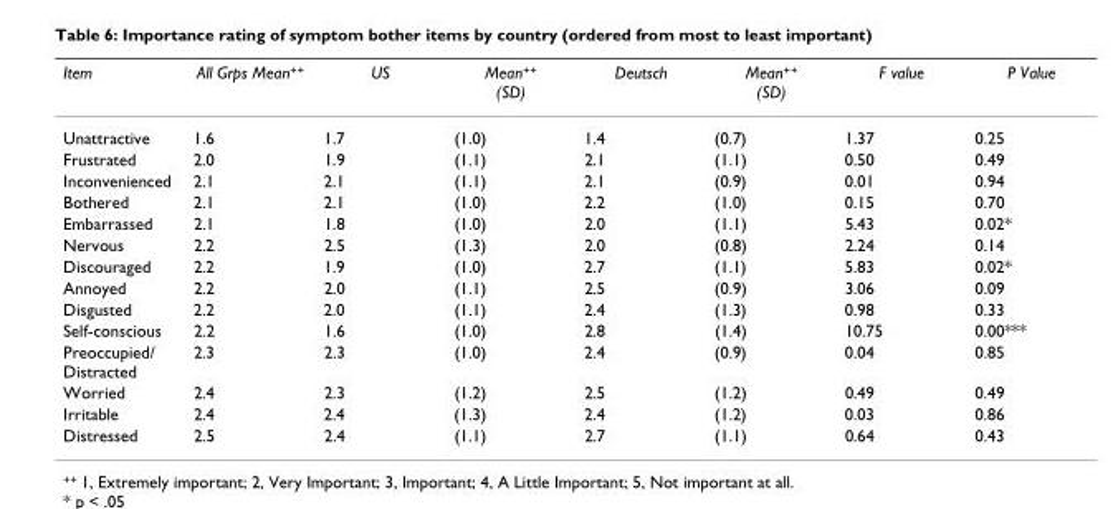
<table><thead><tr><td>Item</td><td>All Grps Mean<sup>++</sup></td><td>US</td><td>Mean<sup>++</sup> (SD)</td><td>Deutsch</td><td>Mean<sup>++</sup> (SD)</td><td>F value</td><td>P Value</td></tr></thead><tbody><tr><td>Unattractive</td><td>1.6</td><td>1.7</td><td>(1.0)</td><td>1.4</td><td>(0.7)</td><td>1.37</td><td>0.25</td></tr><tr><td>Frustrated</td><td>2.0</td><td>1.9</td><td>(1.1)</td><td>2.1</td><td>(1.1)</td><td>0.50</td><td>0.49</td></tr><tr><td>Inconvenienced</td><td>2.1</td><td>2.1</td><td>(1.1)</td><td>2.1</td><td>(0.9)</td><td>0.01</td><td>0.94</td></tr><tr><td>Bothered</td><td>2.1</td><td>2.1</td><td>(1.0)</td><td>2.2</td><td>(1.0)</td><td>0.15</td><td>0.70</td></tr><tr><td>Embarrassed</td><td>2.1</td><td>1.8</td><td>(1.0)</td><td>2.0</td><td>(1.1)</td><td>5.43</td><td>0.02*</td></tr><tr><td>Nervous</td><td>2.2</td><td>2.5</td><td>(1.3)</td><td>2.0</td><td>(0.8)</td><td>2.24</td><td>0.14</td></tr><tr><td>Discouraged</td><td>2.2</td><td>1.9</td><td>(1.0)</td><td>2.7</td><td>(1.1)</td><td>5.83</td><td>0.02*</td></tr><tr><td>Annoyed</td><td>2.2</td><td>2.0</td><td>(1.1)</td><td>2.5</td><td>(0.9)</td><td>3.06</td><td>0.09</td></tr><tr><td>Disgusted</td><td>2.2</td><td>2.0</td><td>(1.1)</td><td>2.4</td><td>(1.3)</td><td>0.98</td><td>0.33</td></tr><tr><td>Self-conscious</td><td>2.2</td><td>1.6</td><td>(1.0)</td><td>2.8</td><td>(1.4)</td><td>10.75</td><td>0.00***</td></tr><tr><td>Preoccupied/ Distracted</td><td>2.3</td><td>2.3</td><td>(1.0)</td><td>2.4</td><td>(0.9)</td><td>0.04</td><td>0.85</td></tr><tr><td>Worried</td><td>2.4</td><td>2.3</td><td>(1.2)</td><td>2.5</td><td>(1.2)</td><td>0.49</td><td>0.49</td></tr><tr><td>Irritable</td><td>2.4</td><td>2.4</td><td>(1.3)</td><td>2.4</td><td>(1.2)</td><td>0.03</td><td>0.86</td></tr><tr><td>Distressed</td><td>2.5</td><td>2.4</td><td>(1.1)</td><td>2.7</td><td>(1.1)</td><td>0.64</td><td>0.43</td></tr></tbody></table>